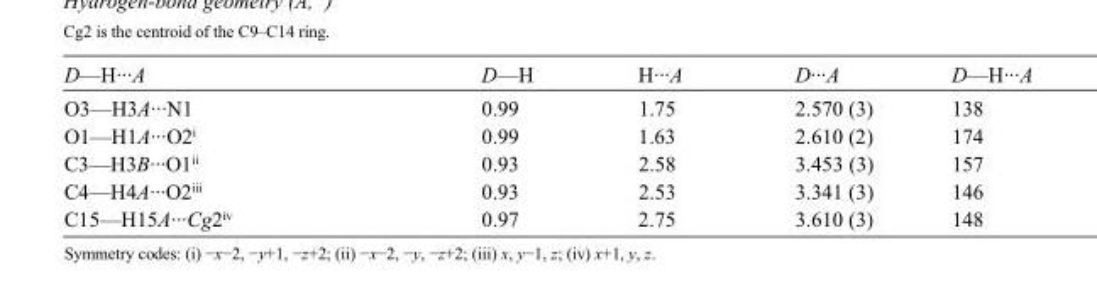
<table><tbody><tr><td>D—H···A</td><td>D—H</td><td>H···A</td><td>D···A</td><td>D—H···A</td></tr><tr><td>O3—H3A···N1</td><td>0.99</td><td>1.75</td><td>2.570 (3)</td><td>138</td></tr><tr><td>O1—H1A···O2<sup>i</sup></td><td>0.99</td><td>1.63</td><td>2.610 (2)</td><td>174</td></tr><tr><td>C3—H3B···O1<sup>ii</sup></td><td>0.93</td><td>2.58</td><td>3.453 (3)</td><td>157</td></tr><tr><td>C4—H4A···O2<sup>iii</sup></td><td>0.93</td><td>2.53</td><td>3.341 (3)</td><td>146</td></tr><tr><td>C15—H15A···Cg2<sup>iv</sup></td><td>0.97</td><td>2.75</td><td>3.610 (3)</td><td>148</td></tr></tbody></table>